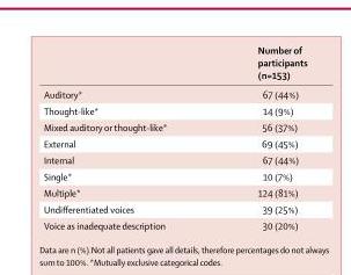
<table><thead><tr><td></td><td>Number of participants (n=153)</td></tr></thead><tbody><tr><td>Auditory*</td><td>67 (44%)</td></tr><tr><td>Thought-like*</td><td>14 (9%)</td></tr><tr><td>Mixed auditory or thought-like*</td><td>56 (37%)</td></tr><tr><td>External</td><td>69 (45%)</td></tr><tr><td>Internal</td><td>67 (44%)</td></tr><tr><td>Single*</td><td>10 (7%)</td></tr><tr><td>Multiple*</td><td>124 (81%)</td></tr><tr><td>Undiff erentiated voices</td><td>39 (25%)</td></tr><tr><td>Voice as inadequate description</td><td>30 (20%)</td></tr></tbody></table>